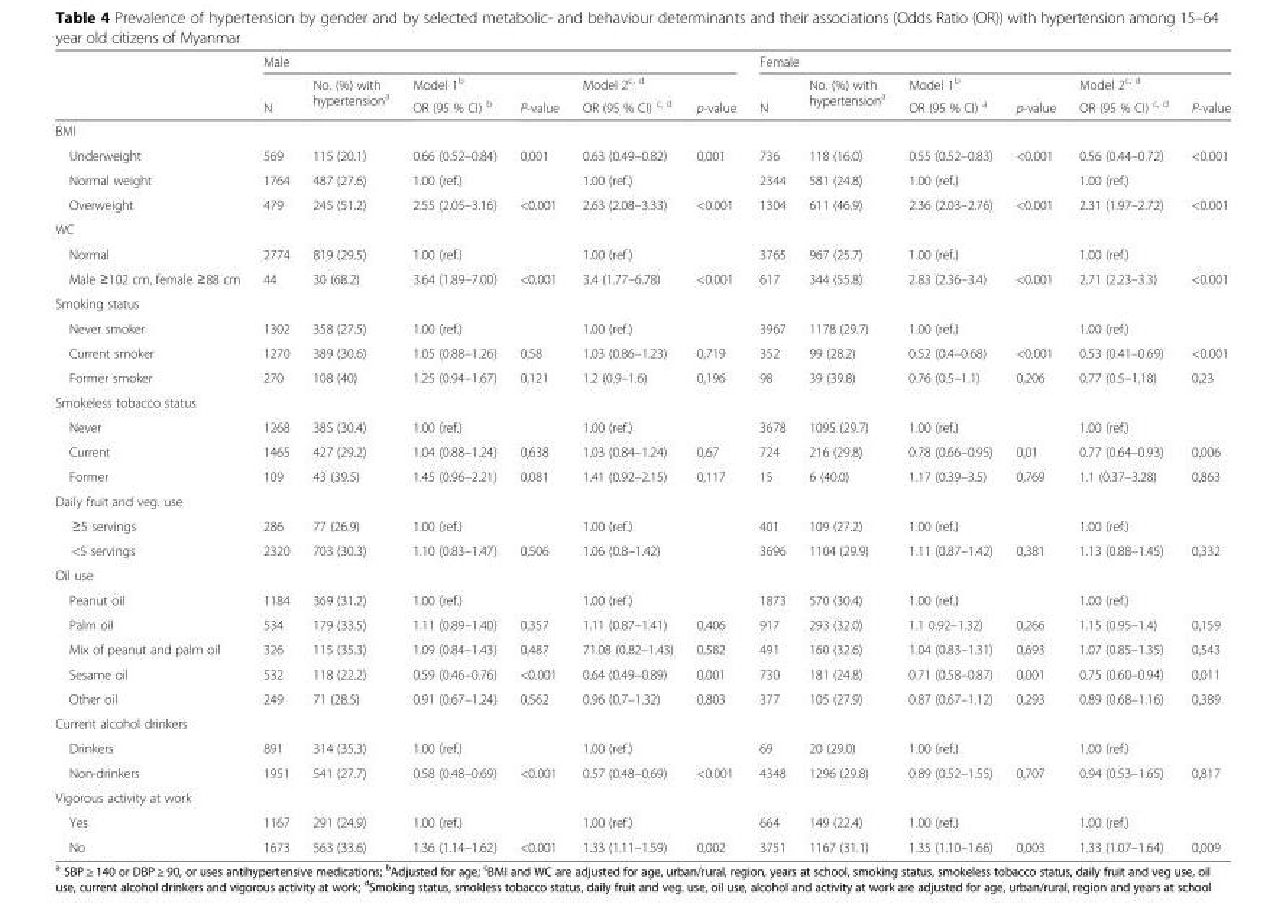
<table><thead><tr><td rowspan="3"></td><td colspan="6">Male</td><td colspan="6">Female</td></tr><tr><td rowspan="2">N</td><td rowspan="2">No. (%) with hypertension<sup>a</sup></td><td rowspan="2">Model 1<sup>b</sup> OR (95 % CI) <sup>b</sup></td><td rowspan="2">P-value</td><td rowspan="2">Model 2<sup>c, d</sup> OR (95 % CI) <sup>c, d</sup></td><td rowspan="2">p-value</td><td rowspan="2">N</td><td rowspan="2">No. (%) with hypertension<sup>a</sup></td><td rowspan="2">Model 1<sup>b</sup> OR (95 % CI) <sup>a</sup></td><td rowspan="2">p-value</td><td rowspan="2">Model 2<sup>c, d</sup> OR (95 % CI) <sup>c, d</sup></td><td rowspan="2">P-value</td></tr><tr></tr></thead><tbody><tr><td colspan="13">BMI</td></tr><tr><td>Underweight</td><td>569</td><td>115 (20.1)</td><td>0.66 (0.52–0.84)</td><td>0,001</td><td>0.63 (0.49–0.82)</td><td>0,001</td><td>736</td><td>118 (16.0)</td><td>0.55 (0.52–0.83)</td><td>&lt;0.001</td><td>0.56 (0.44–0.72)</td><td>&lt;0.001</td></tr><tr><td>Normal weight</td><td>1764</td><td>487 (27.6)</td><td>1.00 (ref.)</td><td></td><td>1.00 (ref.)</td><td></td><td>2344</td><td>581 (24.8)</td><td>1.00 (ref.)</td><td></td><td>1.00 (ref.)</td><td></td></tr><tr><td>Overweight</td><td>479</td><td>245 (51.2)</td><td>2.55 (2.05–3.16)</td><td>&lt;0.001</td><td>2.63 (2.08–3.33)</td><td>&lt;0.001</td><td>1304</td><td>611 (46.9)</td><td>2.36 (2.03–2.76)</td><td>&lt;0.001</td><td>2.31 (1.97–2.72)</td><td>&lt;0.001</td></tr><tr><td colspan="13">WC</td></tr><tr><td>Normal</td><td>2774</td><td>819 (29.5)</td><td>1.00 (ref.)</td><td></td><td>1.00 (ref.)</td><td></td><td>3765</td><td>967 (25.7)</td><td>1.00 (ref.)</td><td></td><td>1.00 (ref.)</td><td></td></tr><tr><td>Male ≥102 cm, female ≥88 cm</td><td>44</td><td>30 (68.2)</td><td>3.64 (1.89–7.00)</td><td>&lt;0.001</td><td>3.4 (1.77–6.78)</td><td>&lt;0.001</td><td>617</td><td>344 (55.8)</td><td>2.83 (2.36–3.4)</td><td>&lt;0.001</td><td>2.71 (2.23–3.3)</td><td>&lt;0.001</td></tr><tr><td colspan="13">Smoking status</td></tr><tr><td>Never smoker</td><td>1302</td><td>358 (27.5)</td><td>1.00 (ref.)</td><td></td><td>1.00 (ref.)</td><td></td><td>3967</td><td>1178 (29.7)</td><td>1.00 (ref.)</td><td></td><td>1.00 (ref.)</td><td></td></tr><tr><td>Current smoker</td><td>1270</td><td>389 (30.6)</td><td>1.05 (0.88–1.26)</td><td>0,58</td><td>1.03 (0.86–1.23)</td><td>0,719</td><td>352</td><td>99 (28.2)</td><td>0.52 (0.4–0.68)</td><td>&lt;0.001</td><td>0.53 (0.41–0.69)</td><td>&lt;0.001</td></tr><tr><td>Former smoker</td><td>270</td><td>108 (40)</td><td>1.25 (0.94–1.67)</td><td>0,121</td><td>1.2 (0.9–1.6)</td><td>0,196</td><td>98</td><td>39 (39.8)</td><td>0.76 (0.5–1.1)</td><td>0,206</td><td>0.77 (0.5–1.18)</td><td>0,23</td></tr><tr><td colspan="13">Smokeless tobacco status</td></tr><tr><td>Never</td><td>1268</td><td>385 (30.4)</td><td>1.00 (ref.)</td><td></td><td>1.00 (ref.)</td><td></td><td>3678</td><td>1095 (29.7)</td><td>1.00 (ref.)</td><td></td><td>1.00 (ref.)</td><td></td></tr><tr><td>Current</td><td>1465</td><td>427 (29.2)</td><td>1.04 (0.88–1.24)</td><td>0,638</td><td>1.03 (0.84–1.24)</td><td>0,67</td><td>724</td><td>216 (29.8)</td><td>0.78 (0.66–0.95)</td><td>0,01</td><td>0.77 (0.64–0.93)</td><td>0,006</td></tr><tr><td>Former</td><td>109</td><td>43 (39.5)</td><td>1.45 (0.96–2.21)</td><td>0,081</td><td>1.41 (0.92–2.15)</td><td>0,117</td><td>15</td><td>6 (40.0)</td><td>1.17 (0.39–3.5)</td><td>0,769</td><td>1.1 (0.37–3.28)</td><td>0,863</td></tr><tr><td colspan="13">Daily fruit and veg. use</td></tr><tr><td>≥5 servings</td><td>286</td><td>77 (26.9)</td><td>1.00 (ref.)</td><td></td><td>1.00 (ref.)</td><td></td><td>401</td><td>109 (27.2)</td><td>1.00 (ref.)</td><td></td><td>1.00 (ref.)</td><td></td></tr><tr><td>&lt;5 servings</td><td>2320</td><td>703 (30.3)</td><td>1.10 (0.83–1.47)</td><td>0,506</td><td>1.06 (0.8–1.42)</td><td></td><td>3696</td><td>1104 (29.9)</td><td>1.11 (0.87–1.42)</td><td>0,381</td><td>1.13 (0.88–1.45)</td><td>0,332</td></tr><tr><td colspan="13">Oil use</td></tr><tr><td>Peanut oil</td><td>1184</td><td>369 (31.2)</td><td>1.00 (ref.)</td><td></td><td>1.00 (ref.)</td><td></td><td>1873</td><td>570 (30.4)</td><td>1.00 (ref.)</td><td></td><td>1.00 (ref.)</td><td></td></tr><tr><td>Palm oil</td><td>534</td><td>179 (33.5)</td><td>1.11 (0.89–1.40)</td><td>0,357</td><td>1.11 (0.87–1.41)</td><td>0,406</td><td>917</td><td>293 (32.0)</td><td>1.1 0.92–1.32)</td><td>0,266</td><td>1.15 (0.95–1.4)</td><td>0,159</td></tr><tr><td>Mix of peanut and palm oil</td><td>326</td><td>115 (35.3)</td><td>1.09 (0.84–1.43)</td><td>0,487</td><td>71.08 (0.82–1.43)</td><td>0,582</td><td>491</td><td>160 (32.6)</td><td>1.04 (0.83–1.31)</td><td>0,693</td><td>1.07 (0.85–1.35)</td><td>0,543</td></tr><tr><td>Sesame oil</td><td>532</td><td>118 (22.2)</td><td>0.59 (0.46–0.76)</td><td>&lt;0.001</td><td>0.64 (0.49–0.89)</td><td>0,001</td><td>730</td><td>181 (24.8)</td><td>0.71 (0.58–0.87)</td><td>0,001</td><td>0.75 (0.60–0.94)</td><td>0,011</td></tr><tr><td>Other oil</td><td>249</td><td>71 (28.5)</td><td>0.91 (0.67–1.24)</td><td>0,562</td><td>0.96 (0.7–1.32)</td><td>0,803</td><td>377</td><td>105 (27.9)</td><td>0.87 (0.67–1.12)</td><td>0,293</td><td>0.89 (0.68–1.16)</td><td>0,389</td></tr><tr><td colspan="13">Current alcohol drinkers</td></tr><tr><td>Drinkers</td><td>891</td><td>314 (35.3)</td><td>1.00 (ref.)</td><td></td><td>1.00 (ref.)</td><td></td><td>69</td><td>20 (29.0)</td><td>1.00 (ref.)</td><td></td><td>1.00 (ref.)</td><td></td></tr><tr><td>Non-drinkers</td><td>1951</td><td>541 (27.7)</td><td>0.58 (0.48–0.69)</td><td>&lt;0.001</td><td>0.57 (0.48–0.69)</td><td>&lt;0.001</td><td>4348</td><td>1296 (29.8)</td><td>0.89 (0.52–1.55)</td><td>0,707</td><td>0.94 (0.53–1.65)</td><td>0,817</td></tr><tr><td colspan="13">Vigorous activity at work</td></tr><tr><td>Yes</td><td>1167</td><td>291 (24.9)</td><td>1.00 (ref.)</td><td></td><td>1.00 (ref.)</td><td></td><td>664</td><td>149 (22.4)</td><td>1.00 (ref.)</td><td></td><td>1.00 (ref.)</td><td></td></tr><tr><td>No</td><td>1673</td><td>563 (33.6)</td><td>1.36 (1.14–1.62)</td><td>&lt;0.001</td><td>1.33 (1.11–1.59)</td><td>0,002</td><td>3751</td><td>1167 (31.1)</td><td>1.35 (1.10–1.66)</td><td>0,003</td><td>1.33 (1.07–1.64)</td><td>0,009</td></tr></tbody></table>